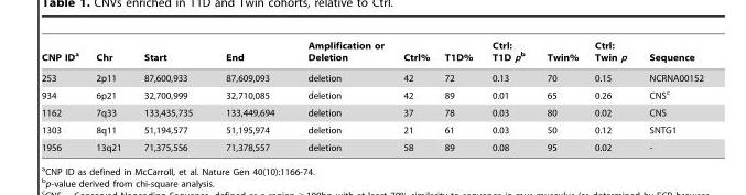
<table><thead><tr><td>CNP ID<sup>a</sup></td><td>Chr</td><td>Start</td><td>End</td><td>Amplification or Deletion</td><td>Ctrl%</td><td>T1D%</td><td>Ctrl: T1D pb</td><td>Twin%</td><td>Ctrl: Twin p</td><td>Sequence</td></tr></thead><tbody><tr><td>253</td><td>2p11</td><td>87,600,933</td><td>87,609,093</td><td>deletion</td><td>42</td><td>72</td><td>0.13</td><td>70</td><td>0.15</td><td>NCRNA00152</td></tr><tr><td>934</td><td>6p21</td><td>32,700,999</td><td>32,710,085</td><td>deletion</td><td>42</td><td>89</td><td>0.01</td><td>65</td><td>0.26</td><td>CNS<sup>c</sup></td></tr><tr><td>1162</td><td>7q33</td><td>133,435,735</td><td>133,449,694</td><td>deletion</td><td>37</td><td>78</td><td>0.03</td><td>80</td><td>0.02</td><td>CNS</td></tr><tr><td>1303</td><td>8q11</td><td>51,194,577</td><td>51,195,974</td><td>deletion</td><td>21</td><td>61</td><td>0.03</td><td>50</td><td>0.12</td><td>SNTG1</td></tr><tr><td>1956</td><td>13q21</td><td>71,375,556</td><td>71,378,557</td><td>deletion</td><td>58</td><td>89</td><td>0.08</td><td>95</td><td>0.02</td><td>-</td></tr></tbody></table>